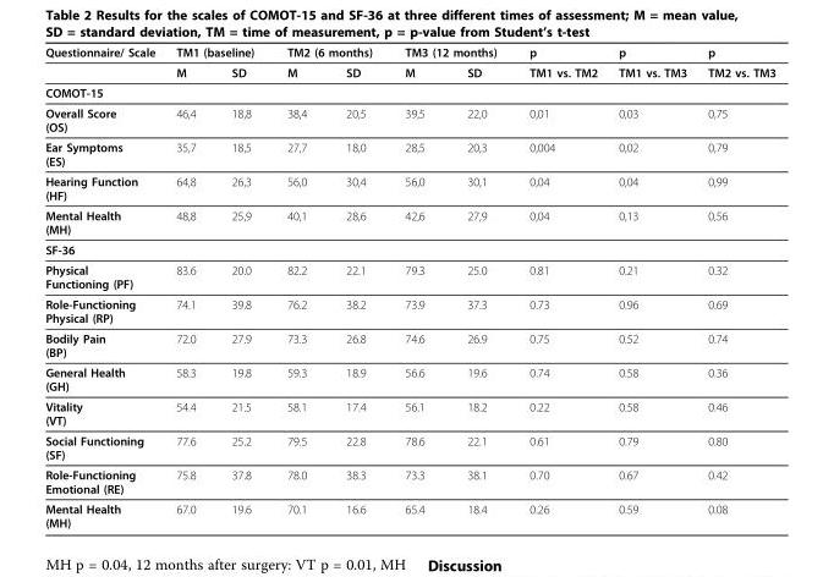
<table><thead><tr><td rowspan="2">Questionnaire/ Scale</td><td colspan="2">TM1 (baseline)</td><td colspan="2">TM2 (6 months)</td><td colspan="2">TM3 (12 months)</td><td rowspan="2">p TM1 vs. TM2</td><td rowspan="2">p TM1 vs. TM3</td><td rowspan="2">p TM2 vs. TM3</td></tr><tr><td>M</td><td>SD</td><td>M</td><td>SD</td><td>M</td><td>SD</td></tr></thead><tbody><tr><td colspan="10">COMOT-15</td></tr><tr><td>Overall Score (OS)</td><td>46,4</td><td>18,8</td><td>38,4</td><td>20,5</td><td>39,5</td><td>22,0</td><td>0,01</td><td>0,03</td><td>0,75</td></tr><tr><td>Ear Symptoms (ES)</td><td>35,7</td><td>18,5</td><td>27,7</td><td>18,0</td><td>28,5</td><td>20,3</td><td>0,004</td><td>0,02</td><td>0,79</td></tr><tr><td>Hearing Function (HF)</td><td>64,8</td><td>26,3</td><td>56,0</td><td>30,4</td><td>56,0</td><td>30,1</td><td>0,04</td><td>0,04</td><td>0,99</td></tr><tr><td>Mental Health (MH)</td><td>48,8</td><td>25,9</td><td>40,1</td><td>28,6</td><td>42,6</td><td>27,9</td><td>0,04</td><td>0,13</td><td>0,56</td></tr><tr><td colspan="10">SF-36</td></tr><tr><td>Physical Functioning (PF)</td><td>83.6</td><td>20.0</td><td>82.2</td><td>22.1</td><td>79.3</td><td>25.0</td><td>0.81</td><td>0.21</td><td>0.32</td></tr><tr><td>Role-Functioning Physical (RP)</td><td>74.1</td><td>39.8</td><td>76.2</td><td>38.2</td><td>73.9</td><td>37.3</td><td>0.73</td><td>0.96</td><td>0.69</td></tr><tr><td>Bodily Pain (BP)</td><td>72.0</td><td>27.9</td><td>73.3</td><td>26.8</td><td>74.6</td><td>26.9</td><td>0.75</td><td>0.52</td><td>0.74</td></tr><tr><td>General Health (GH)</td><td>58.3</td><td>19.8</td><td>59.3</td><td>18.9</td><td>56.6</td><td>19.6</td><td>0.74</td><td>0.58</td><td>0.36</td></tr><tr><td>Vitality (VT)</td><td>54.4</td><td>21.5</td><td>58.1</td><td>17.4</td><td>56.1</td><td>18.2</td><td>0.22</td><td>0.58</td><td>0.46</td></tr><tr><td>Social Functioning (SF)</td><td>77.6</td><td>25.2</td><td>79.5</td><td>22.8</td><td>78.6</td><td>22.1</td><td>0.61</td><td>0.79</td><td>0.80</td></tr><tr><td>Role-Functioning Emotional (RE)</td><td>75.8</td><td>37.8</td><td>78.0</td><td>38.3</td><td>73.3</td><td>38.1</td><td>0.70</td><td>0.67</td><td>0.42</td></tr><tr><td>Mental Health (MH)</td><td>67.0</td><td>19.6</td><td>70.1</td><td>16.6</td><td>65.4</td><td>18.4</td><td>0.26</td><td>0.59</td><td>0.08</td></tr></tbody></table>